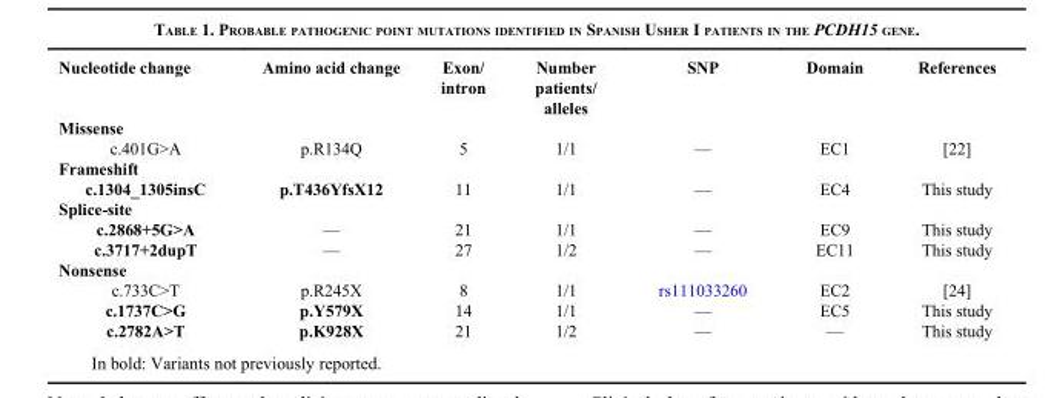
<table><thead><tr><td>Nucleotide change</td><td>Amino acid change</td><td>Exon/ intron</td><td>Number patients/ alleles</td><td>SNP</td><td>Domain</td><td>References</td></tr></thead><tbody><tr><td colspan="7">Missense</td></tr><tr><td>c.401G&gt;A</td><td>p.R134Q</td><td>5</td><td>1/1</td><td>—</td><td>EC1</td><td>[22]</td></tr><tr><td colspan="7">Frameshift</td></tr><tr><td>c.1304_1305insC</td><td>p.T436YfsX12</td><td>11</td><td>1/1</td><td>—</td><td>EC4</td><td>This study</td></tr><tr><td colspan="7">Splice-site</td></tr><tr><td>c.2868+5G&gt;A</td><td>—</td><td>21</td><td>1/1</td><td>—</td><td>EC9</td><td>This study</td></tr><tr><td>c.3717+2dupT</td><td>—</td><td>27</td><td>1/2</td><td>—</td><td>EC11</td><td>This study</td></tr><tr><td colspan="7">Nonsense</td></tr><tr><td>c.733C&gt;T</td><td>p.R245X</td><td>8</td><td>1/1</td><td>rs111033260</td><td>EC2</td><td>[24]</td></tr><tr><td>c.1737C&gt;G</td><td>p.Y579X</td><td>14</td><td>1/1</td><td>—</td><td>EC5</td><td>This study</td></tr><tr><td>c.2782A&gt;T</td><td>p.K928X</td><td>21</td><td>1/2</td><td>—</td><td>—</td><td>This study</td></tr></tbody></table>